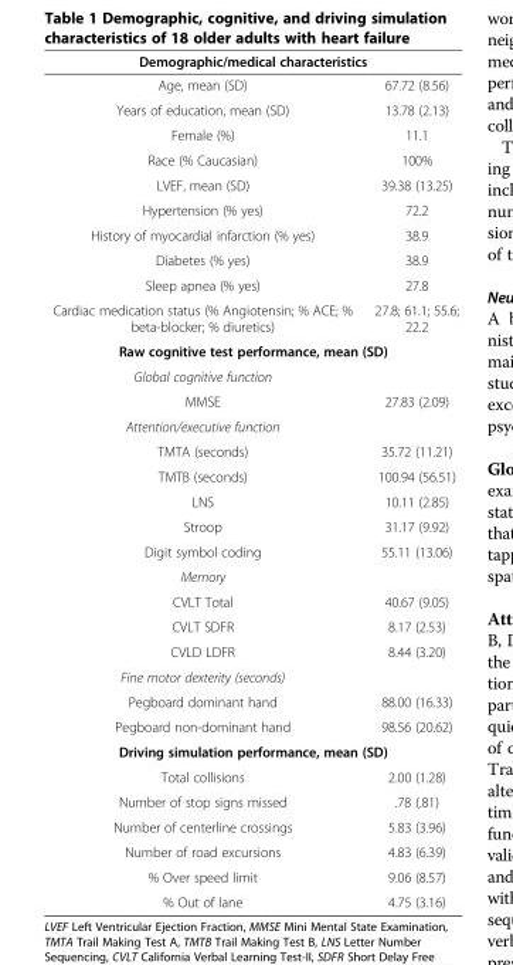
<table><thead><tr><td colspan="2">Demographic/medical characteristics</td></tr><tr><td>Age, mean (SD)</td><td>67.72 (8.56)</td></tr></thead><tbody><tr><td>Years of education, mean (SD)</td><td>13.78 (2.13)</td></tr><tr><td>Female (%)</td><td>11.1</td></tr><tr><td>Race (% Caucasian)</td><td>100%</td></tr><tr><td>LVEF, mean (SD)</td><td>39.38 (13.25)</td></tr><tr><td>Hypertension (% yes)</td><td>72.2</td></tr><tr><td>History of myocardial infarction (% yes)</td><td>38.9</td></tr><tr><td>Diabetes (% yes)</td><td>38.9</td></tr><tr><td>Sleep apnea (% yes)</td><td>27.8</td></tr><tr><td>Cardiac medication status (% Angiotensin; % ACE; % beta-blocker; % diuretics)</td><td>27.8; 61.1; 55.6; 22.2</td></tr><tr><td colspan="2">Raw cognitive test performance, mean (SD)</td></tr><tr><td colspan="2">Global cognitive function</td></tr><tr><td>MMSE</td><td>27.83 (2.09)</td></tr><tr><td colspan="2">Attention/executive function</td></tr><tr><td>TMTA (seconds)</td><td>35.72 (11.21)</td></tr><tr><td>TMTB (seconds)</td><td>100.94 (56.51)</td></tr><tr><td>LNS</td><td>10.11 (2.85)</td></tr><tr><td>Stroop</td><td>31.17 (9.92)</td></tr><tr><td>Digit symbol coding</td><td>55.11 (13.06)</td></tr><tr><td colspan="2">Memory</td></tr><tr><td>CVLT Total</td><td>40.67 (9.05)</td></tr><tr><td>CVLT SDFR</td><td>8.17 (2.53)</td></tr><tr><td>CVLD LDFR</td><td>8.44 (3.20)</td></tr><tr><td colspan="2">Fine motor dexterity (seconds)</td></tr><tr><td>Pegboard dominant hand</td><td>88.00 (16.33)</td></tr><tr><td>Pegboard non-dominant hand</td><td>98.56 (20.62)</td></tr><tr><td colspan="2">Driving simulation performance, mean (SD)</td></tr><tr><td>Total collisions</td><td>2.00 (1.28)</td></tr><tr><td>Number of stop signs missed</td><td>.78 (.81)</td></tr><tr><td>Number of centerline crossings</td><td>5.83 (3.96)</td></tr><tr><td>Number of road excursions</td><td>4.83 (6.39)</td></tr><tr><td>% Over speed limit</td><td>9.06 (8.57)</td></tr><tr><td>% Out of lane</td><td>4.75 (3.16)</td></tr></tbody></table>